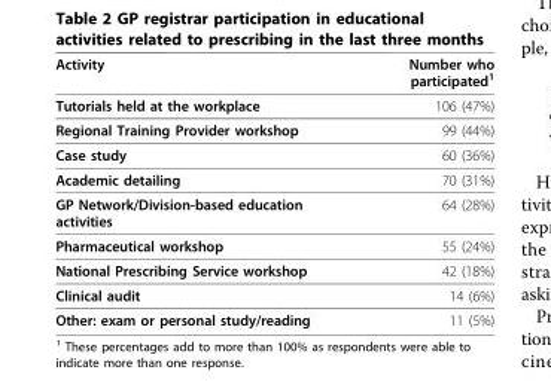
<table><thead><tr><td>Activity</td><td>Number who participated<sup>1</sup></td></tr></thead><tbody><tr><td>Tutorials held at the workplace</td><td>106 (47%)</td></tr><tr><td>Regional Training Provider workshop</td><td>99 (44%)</td></tr><tr><td>Case study</td><td>60 (36%)</td></tr><tr><td>Academic detailing</td><td>70 (31%)</td></tr><tr><td>GP Network/Division-based education activities</td><td>64 (28%)</td></tr><tr><td>Pharmaceutical workshop</td><td>55 (24%)</td></tr><tr><td>National Prescribing Service workshop</td><td>42 (18%)</td></tr><tr><td>Clinical audit</td><td>14 (6%)</td></tr><tr><td>Other: exam or personal study/reading</td><td>11 (5%)</td></tr></tbody></table>